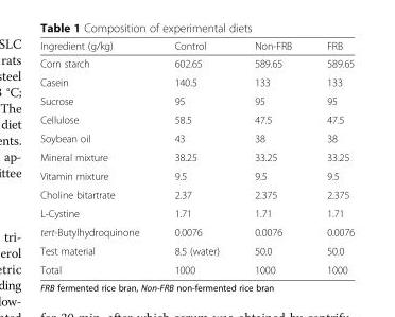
<table><thead><tr><td>Ingredient (g/kg)</td><td>Control</td><td>Non-FRB</td><td>FRB</td></tr></thead><tbody><tr><td>Corn starch</td><td>602.65</td><td>589.65</td><td>589.65</td></tr><tr><td>Casein</td><td>140.5</td><td>133</td><td>133</td></tr><tr><td>Sucrose</td><td>95</td><td>95</td><td>95</td></tr><tr><td>Cellulose</td><td>58.5</td><td>47.5</td><td>47.5</td></tr><tr><td>Soybean oil</td><td>43</td><td>38</td><td>38</td></tr><tr><td>Mineral mixture</td><td>38.25</td><td>33.25</td><td>33.25</td></tr><tr><td>Vitamin mixture</td><td>9.5</td><td>9.5</td><td>9.5</td></tr><tr><td>Choline bitartrate</td><td>2.37</td><td>2.375</td><td>2.375</td></tr><tr><td>L-Cystine</td><td>1.71</td><td>1.71</td><td>1.71</td></tr><tr><td>tert-Butylhydroquinone</td><td>0.0076</td><td>0.0076</td><td>0.0076</td></tr><tr><td>Test material</td><td>8.5 (water)</td><td>50.0</td><td>50.0</td></tr><tr><td>Total</td><td>1000</td><td>1000</td><td>1000</td></tr></tbody></table>